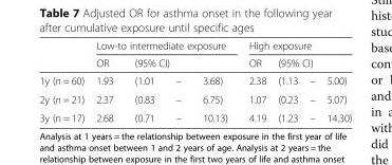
<table><thead><tr><td rowspan="3">1y (n = 60)</td><td colspan="4">Low-to intermediate exposure</td><td colspan="4">High exposure</td></tr><tr><td rowspan="2">OR 1.93</td><td colspan="3">(95% CI)</td><td rowspan="2">OR 2.38</td><td colspan="3">(95% CI)</td></tr><tr><td>(1.01</td><td>–</td><td>3.68)</td><td>(1.13</td><td>–</td><td>5.00)</td></tr></thead><tbody><tr><td>2y (n = 21)</td><td>2.37</td><td>(0.83</td><td>–</td><td>6.75)</td><td>1.07</td><td>(0.23</td><td>–</td><td>5.07)</td></tr><tr><td>3y (n = 17)</td><td>2.68</td><td>(0.71</td><td>–</td><td>10.13)</td><td>4.19</td><td>(1.23</td><td>–</td><td>14.30)</td></tr></tbody></table>